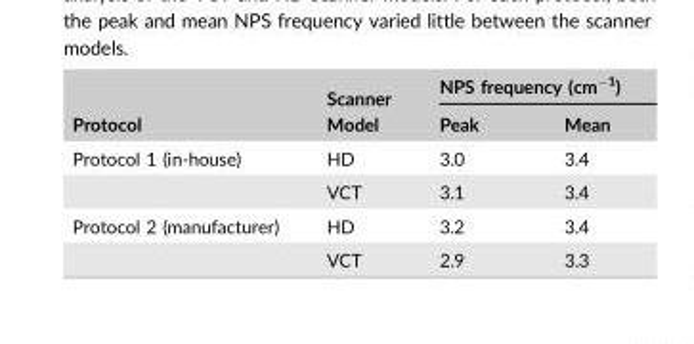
<table><thead><tr><td rowspan="2">Protocol</td><td rowspan="2">Scanner Model</td><td colspan="2">NPS frequency (cm<sup>−1</sup>)</td></tr><tr><td>Peak</td><td>Mean</td></tr></thead><tbody><tr><td rowspan="2">Protocol 1 (in-house)</td><td>HD</td><td>3.0</td><td>3.4</td></tr><tr><td>VCT</td><td>3.1</td><td>3.4</td></tr><tr><td rowspan="2">Protocol 2 (manufacturer)</td><td>HD</td><td>3.2</td><td>3.4</td></tr><tr><td>VCT</td><td>2.9</td><td>3.3</td></tr></tbody></table>